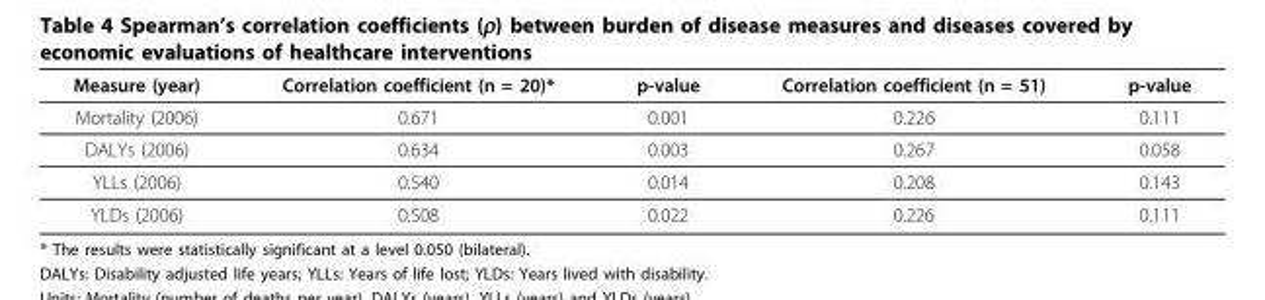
<table><thead><tr><td>Measure (year)</td><td>Correlation coefficient (n = 20)*</td><td>p-value</td><td>Correlation coefficient (n = 51)</td><td>p-value</td></tr></thead><tbody><tr><td>Mortality (2006)</td><td>0.671</td><td>0.001</td><td>0.226</td><td>0.111</td></tr><tr><td>DALYs (2006)</td><td>0.634</td><td>0.003</td><td>0.267</td><td>0.058</td></tr><tr><td>YLLs (2006)</td><td>0.540</td><td>0.014</td><td>0.208</td><td>0.143</td></tr><tr><td>YLDs (2006)</td><td>0.508</td><td>0.022</td><td>0.226</td><td>0.111</td></tr></tbody></table>